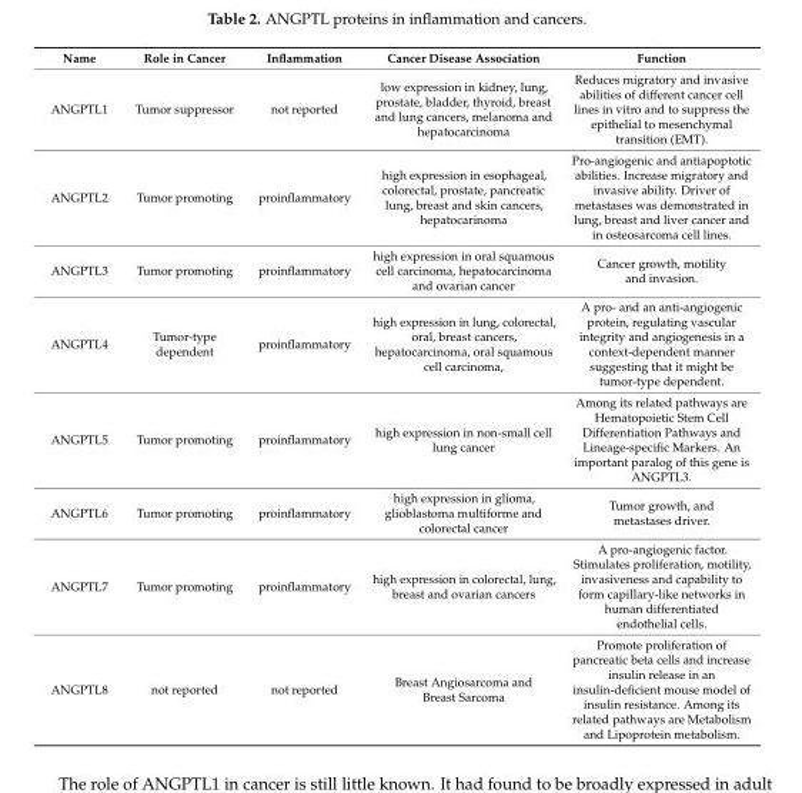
<table><thead><tr><td>Name</td><td>Role in Cancer</td><td>Inflammation</td><td>Cancer Disease Association</td><td>Function</td></tr></thead><tbody><tr><td>ANGPTL1</td><td>Tumor suppressor</td><td>not reported</td><td>low expression in kidney, lung, prostate, bladder, thyroid, breast and lung cancers, melanoma and hepatocarcinoma</td><td>Reduces migratory and invasive abilities of different cancer cell lines in vitro and to suppress the epithelial to mesenchymal transition (EMT).</td></tr><tr><td>ANGPTL2</td><td>Tumor promoting</td><td>proinflammatory</td><td>high expression in esophageal, colorectal, prostate, pancreatic lung, breast and skin cancers, hepatocarinoma</td><td>Pro-angiogenic and antiapoptotic abilities. Increase migratory and invasive ability. Driver of metastases was demonstrated in lung, breast and liver cancer and in osteosarcoma cell lines.</td></tr><tr><td>ANGPTL3</td><td>Tumor promoting</td><td>proinflammatory</td><td>high expression in oral squamous cell carcinoma, hepatocarcinoma and ovarian cancer</td><td>Cancer growth, motility and invasion.</td></tr><tr><td>ANGPTL4</td><td>Tumor-type dependent</td><td>proinflammatory</td><td>high expression in lung, colorectal, oral, breast cancers, hepatocarcinoma, oral squamous cell carcinoma,</td><td>A pro- and an anti-angiogenic protein, regulating vascular integrity and angiogenesis in a context-dependent manner suggesting that it might be tumor-type dependent.</td></tr><tr><td>ANGPTL5</td><td>Tumor promoting</td><td>proinflammatory</td><td>high expression in non-small cell lung cancer</td><td>Among its related pathways are Hematopoietic Stem Cell Differentiation Pathways and Lineage-specific Markers. An important paralog of this gene is ANGPTL3.</td></tr><tr><td>ANGPTL6</td><td>Tumor promoting</td><td>proinflammatory</td><td>high expression in glioma, glioblastoma multiforme and colorectal cancer</td><td>Tumor growth, and metastases driver.</td></tr><tr><td>ANGPTL7</td><td>Tumor promoting</td><td>proinflammatory</td><td>high expression in colorectal, lung, breast and ovarian cancers</td><td>A pro-angiogenic factor. Stimulates proliferation, motility, invasiveness and capability to form capillary-like networks in human differentiated endothelial cells.</td></tr><tr><td>ANGPTL8</td><td>not reported</td><td>not reported</td><td>Breast Angiosarcoma and Breast Sarcoma</td><td>Promote proliferation of pancreatic beta cells and increase insulin release in an insulin-deficient mouse model of insulin resistance. Among its related pathways are Metabolism and Lipoprotein metabolism.</td></tr></tbody></table>